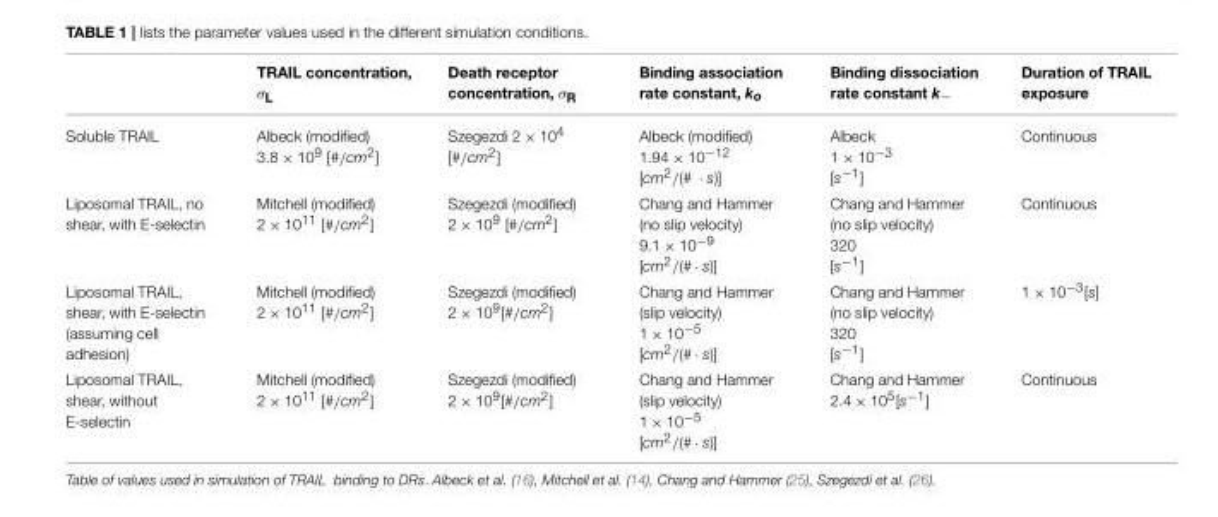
<table><thead><tr><td></td><td>TRAIL concentration, σ<sub>L</sub></td><td>Death receptor concentration, σ<sub>R</sub></td><td>Binding association rate constant, k<sub>o</sub></td><td>Binding dissociation rate constant k<sub>−</sub></td><td>Duration of TRAIL exposure</td></tr></thead><tbody><tr><td>Soluble TRAIL</td><td>Albeck (modified) 3.8 × 10<sup>9</sup> [#/cm<sup>2</sup>]</td><td>Szegezdi 2 × 10<sup>4</sup> [#/cm<sup>2</sup>]</td><td>Albeck (modified) 1.94 × 10<sup>−12</sup> [cm<sup>2</sup>/(# · s)]</td><td>Albeck 1 × 10<sup>−3</sup> [s<sup>−1</sup>]</td><td>Continuous</td></tr><tr><td>Liposomal TRAIL, no shear, with E-selectin</td><td>Mitchell (modified) 2 × 10<sup>11</sup> [#/cm<sup>2</sup>]</td><td>Szegezdi (modified) 2 × 10<sup>9</sup> [#/cm<sup>2</sup>]</td><td>Chang and Hammer (no slip velocity) 9.1 × 10<sup>−9</sup> [cm<sup>2</sup>/(# · s)]</td><td>Chang and Hammer (no slip velocity) 320 [s<sup>−1</sup>]</td><td>Continuous</td></tr><tr><td>Liposomal TRAIL, shear, with E-selectin (assuming cell adhesion)</td><td>Mitchell (modified) 2 × 10<sup>11</sup> [#/cm<sup>2</sup>]</td><td>Szegezdi (modified) 2 × 10<sup>9</sup>[#/cm<sup>2</sup>]</td><td>Chang and Hammer (slip velocity) 1 × 10<sup>−5</sup> [cm<sup>2</sup>/(# · s)]</td><td>Chang and Hammer (no slip velocity) 320 [s<sup>−1</sup>]</td><td>1 × 10<sup>−3</sup>[s]</td></tr><tr><td>Liposomal TRAIL, shear, without E-selectin</td><td>Mitchell (modified) 2 × 10<sup>11</sup> [#/cm<sup>2</sup>]</td><td>Szegezdi (modified) 2 × 10<sup>9</sup>[#/cm<sup>2</sup>]</td><td>Chang and Hammer (slip velocity) 1 × 10<sup>−5</sup> [cm<sup>2</sup>/(# · s)]</td><td>Chang and Hammer 2.4 × 10<sup>5</sup>[s<sup>−1</sup>]</td><td>Continuous</td></tr></tbody></table>